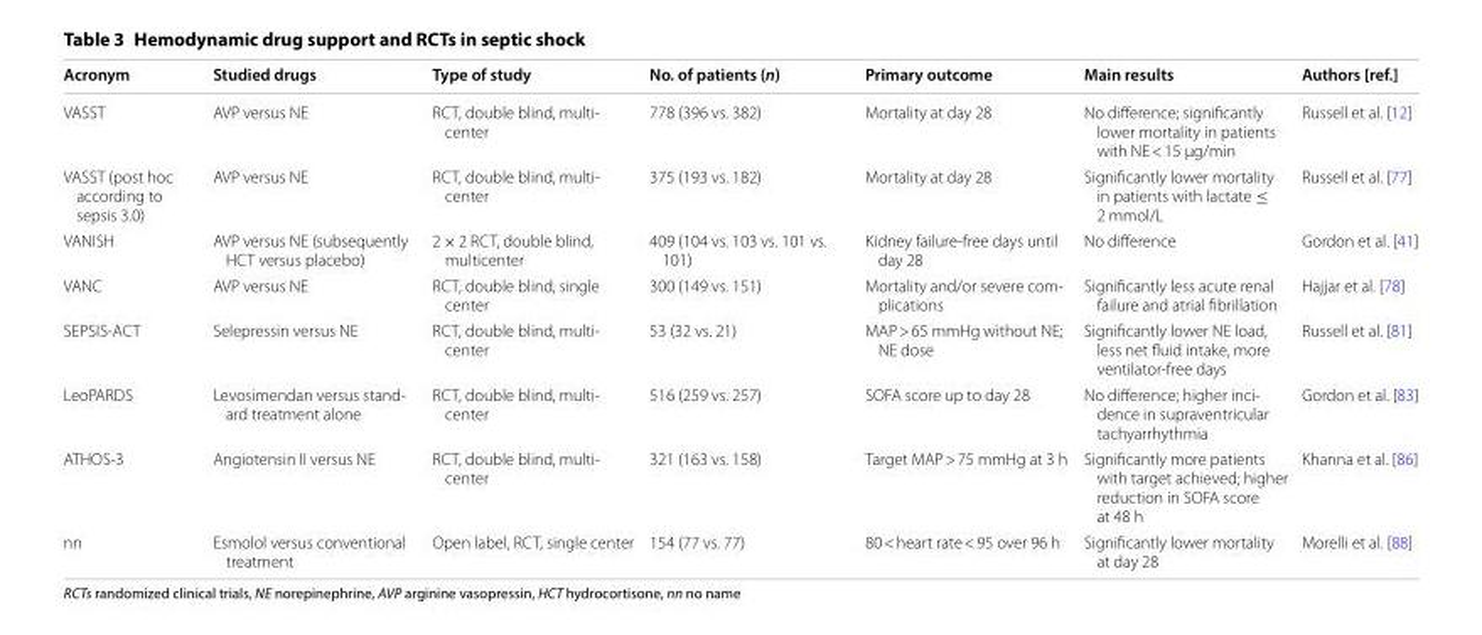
<table><thead><tr><td>Acronym</td><td>Studied drugs</td><td>Type of study</td><td>No. of patients (n)</td><td>Primary outcome</td><td>Main results</td><td>Authors [ref.]</td></tr></thead><tbody><tr><td>VASST</td><td>AVP versus NE</td><td>RCT, double blind, multi- center</td><td>778 (396 vs. 382)</td><td>Mortality at day 28</td><td>No difference; significantly lower mortality in patients with NE &lt; 15 µg/min</td><td>Russell et al. [12]</td></tr><tr><td>VASST (post hoc according to sepsis 3.0)</td><td>AVP versus NE</td><td>RCT, double blind, multi- center</td><td>375 (193 vs. 182)</td><td>Mortality at day 28</td><td>Significantly lower mortality in patients with lactate ≤ 2 mmol/L</td><td>Russell et al. [77]</td></tr><tr><td>VANISH</td><td>AVP versus NE (subsequently HCT versus placebo)</td><td>2 × 2 RCT, double blind, multicenter</td><td>409 (104 vs. 103 vs. 101 vs. 101)</td><td>Kidney failure-free days until day 28</td><td>No difference</td><td>Gordon et al. [41]</td></tr><tr><td>VANC</td><td>AVP versus NE</td><td>RCT, double blind, single center</td><td>300 (149 vs. 151)</td><td>Mortality and/or severe com- plications</td><td>Significantly less acute renal failure and atrial fibrillation</td><td>Hajjar et al. [78]</td></tr><tr><td>SEPSIS-ACT</td><td>Selepressin versus NE</td><td>RCT, double blind, multi- center</td><td>53 (32 vs. 21)</td><td>MAP &gt; 65 mmHg without NE; NE dose</td><td>Significantly lower NE load, less net fluid intake, more ventilator-free days</td><td>Russell et al. [81]</td></tr><tr><td>LeoPARDS</td><td>Levosimendan versus stand- ard treatment alone</td><td>RCT, double blind, multi- center</td><td>516 (259 vs. 257)</td><td>SOFA score up to day 28</td><td>No difference; higher inci- dence in supraventricular tachyarrhythmia</td><td>Gordon et al. [83]</td></tr><tr><td>ATHOS-3</td><td>Angiotensin II versus NE</td><td>RCT, double blind, multi- center</td><td>321 (163 vs. 158)</td><td>Target MAP &gt; 75 mmHg at 3 h</td><td>Significantly more patients with target achieved; higher reduction in SOFA score at 48 h</td><td>Khanna et al. [86]</td></tr><tr><td>nn</td><td>Esmolol versus conventional treatment</td><td>Open label, RCT, single center</td><td>154 (77 vs. 77)</td><td>80 &lt; heart rate &lt; 95 over 96 h</td><td>Significantly lower mortality at day 28</td><td>Morelli et al. [88]</td></tr></tbody></table>